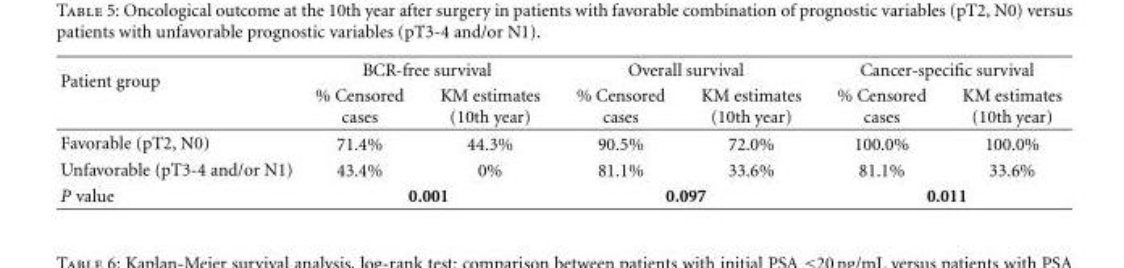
<table><thead><tr><td rowspan="2">Patient group</td><td colspan="2">BCR-free survival</td><td colspan="2">Overall survival</td><td colspan="2">Cancer-specific survival</td></tr><tr><td>% Censored cases</td><td>KM estimates (10th year)</td><td>% Censored cases</td><td>KM estimates (10th year)</td><td>% Censored cases</td><td>KM estimates (10th year)</td></tr></thead><tbody><tr><td>Favorable (pT2, N0)</td><td>71.4%</td><td>44.3%</td><td>90.5%</td><td>72.0%</td><td>100.0%</td><td>100.0%</td></tr><tr><td>Unfavorable (pT3-4 and/or N1)</td><td>43.4%</td><td>0%</td><td>81.1%</td><td>33.6%</td><td>81.1%</td><td>33.6%</td></tr><tr><td>P value</td><td colspan="2">0.001</td><td colspan="2">0.097</td><td colspan="2">0.011</td></tr></tbody></table>